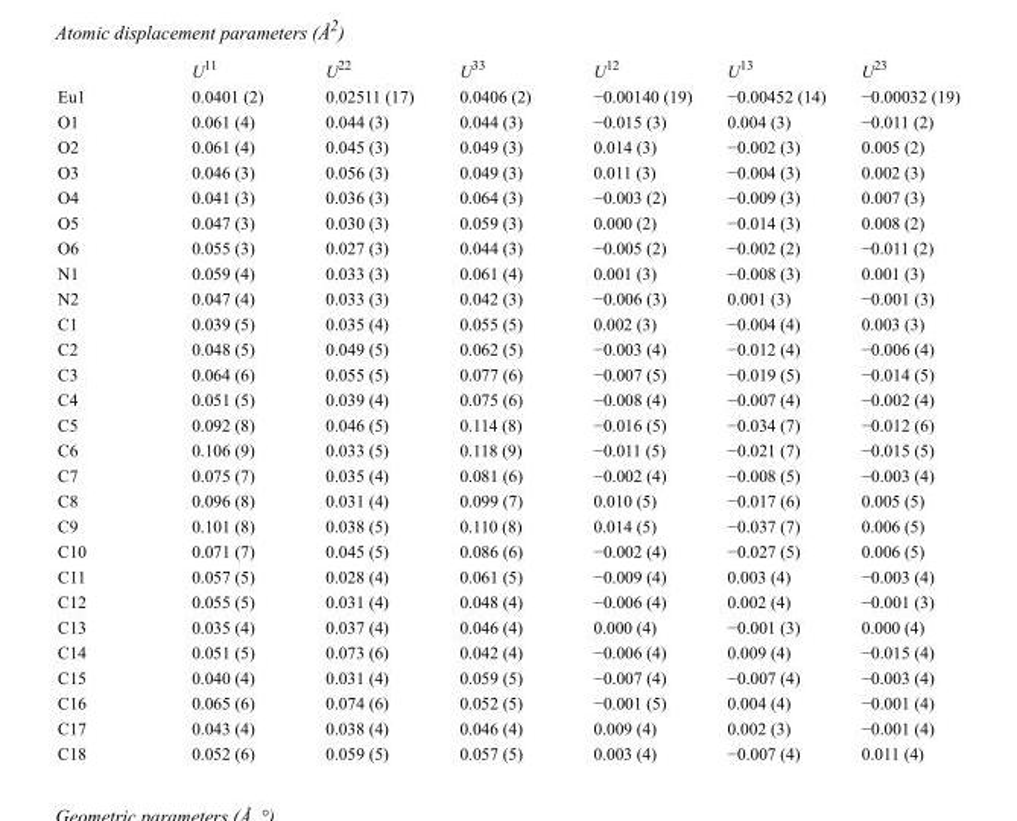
<table><thead><tr><td></td><td>U<sup>11</sup></td><td>U<sup>22</sup></td><td>U<sup>33</sup></td><td>U<sup>12</sup></td><td>U<sup>13</sup></td><td>U<sup>23</sup></td></tr></thead><tbody><tr><td>Eu1</td><td>0.0401 (2)</td><td>0.02511 (17)</td><td>0.0406 (2)</td><td>−0.00140 (19)</td><td>−0.00452 (14)</td><td>−0.00032 (19)</td></tr><tr><td>O1</td><td>0.061 (4)</td><td>0.044 (3)</td><td>0.044 (3)</td><td>−0.015 (3)</td><td>0.004 (3)</td><td>−0.011 (2)</td></tr><tr><td>O2</td><td>0.061 (4)</td><td>0.045 (3)</td><td>0.049 (3)</td><td>0.014 (3)</td><td>−0.002 (3)</td><td>0.005 (2)</td></tr><tr><td>O3</td><td>0.046 (3)</td><td>0.056 (3)</td><td>0.049 (3)</td><td>0.011 (3)</td><td>−0.004 (3)</td><td>0.002 (3)</td></tr><tr><td>O4</td><td>0.041 (3)</td><td>0.036 (3)</td><td>0.064 (3)</td><td>−0.003 (2)</td><td>−0.009 (3)</td><td>0.007 (3)</td></tr><tr><td>O5</td><td>0.047 (3)</td><td>0.030 (3)</td><td>0.059 (3)</td><td>0.000 (2)</td><td>−0.014 (3)</td><td>0.008 (2)</td></tr><tr><td>O6</td><td>0.055 (3)</td><td>0.027 (3)</td><td>0.044 (3)</td><td>−0.005 (2)</td><td>−0.002 (2)</td><td>−0.011 (2)</td></tr><tr><td>N1</td><td>0.059 (4)</td><td>0.033 (3)</td><td>0.061 (4)</td><td>0.001 (3)</td><td>−0.008 (3)</td><td>0.001 (3)</td></tr><tr><td>N2</td><td>0.047 (4)</td><td>0.033 (3)</td><td>0.042 (3)</td><td>−0.006 (3)</td><td>0.001 (3)</td><td>−0.001 (3)</td></tr><tr><td>C1</td><td>0.039 (5)</td><td>0.035 (4)</td><td>0.055 (5)</td><td>0.002 (3)</td><td>−0.004 (4)</td><td>0.003 (3)</td></tr><tr><td>C2</td><td>0.048 (5)</td><td>0.049 (5)</td><td>0.062 (5)</td><td>−0.003 (4)</td><td>−0.012 (4)</td><td>−0.006 (4)</td></tr><tr><td>C3</td><td>0.064 (6)</td><td>0.055 (5)</td><td>0.077 (6)</td><td>−0.007 (5)</td><td>−0.019 (5)</td><td>−0.014 (5)</td></tr><tr><td>C4</td><td>0.051 (5)</td><td>0.039 (4)</td><td>0.075 (6)</td><td>−0.008 (4)</td><td>−0.007 (4)</td><td>−0.002 (4)</td></tr><tr><td>C5</td><td>0.092 (8)</td><td>0.046 (5)</td><td>0.114 (8)</td><td>−0.016 (5)</td><td>−0.034 (7)</td><td>−0.012 (6)</td></tr><tr><td>C6</td><td>0.106 (9)</td><td>0.033 (5)</td><td>0.118 (9)</td><td>−0.011 (5)</td><td>−0.021 (7)</td><td>−0.015 (5)</td></tr><tr><td>C7</td><td>0.075 (7)</td><td>0.035 (4)</td><td>0.081 (6)</td><td>−0.002 (4)</td><td>−0.008 (5)</td><td>−0.003 (4)</td></tr><tr><td>C8</td><td>0.096 (8)</td><td>0.031 (4)</td><td>0.099 (7)</td><td>0.010 (5)</td><td>−0.017 (6)</td><td>0.005 (5)</td></tr><tr><td>C9</td><td>0.101 (8)</td><td>0.038 (5)</td><td>0.110 (8)</td><td>0.014 (5)</td><td>−0.037 (7)</td><td>0.006 (5)</td></tr><tr><td>C10</td><td>0.071 (7)</td><td>0.045 (5)</td><td>0.086 (6)</td><td>−0.002 (4)</td><td>−0.027 (5)</td><td>0.006 (5)</td></tr><tr><td>C11</td><td>0.057 (5)</td><td>0.028 (4)</td><td>0.061 (5)</td><td>−0.009 (4)</td><td>0.003 (4)</td><td>−0.003 (4)</td></tr><tr><td>C12</td><td>0.055 (5)</td><td>0.031 (4)</td><td>0.048 (4)</td><td>−0.006 (4)</td><td>0.002 (4)</td><td>−0.001 (3)</td></tr><tr><td>C13</td><td>0.035 (4)</td><td>0.037 (4)</td><td>0.046 (4)</td><td>0.000 (4)</td><td>−0.001 (3)</td><td>0.000 (4)</td></tr><tr><td>C14</td><td>0.051 (5)</td><td>0.073 (6)</td><td>0.042 (4)</td><td>−0.006 (4)</td><td>0.009 (4)</td><td>−0.015 (4)</td></tr><tr><td>C15</td><td>0.040 (4)</td><td>0.031 (4)</td><td>0.059 (5)</td><td>−0.007 (4)</td><td>−0.007 (4)</td><td>−0.003 (4)</td></tr><tr><td>C16</td><td>0.065 (6)</td><td>0.074 (6)</td><td>0.052 (5)</td><td>−0.001 (5)</td><td>0.004 (4)</td><td>−0.001 (4)</td></tr><tr><td>C17</td><td>0.043 (4)</td><td>0.038 (4)</td><td>0.046 (4)</td><td>0.009 (4)</td><td>0.002 (3)</td><td>−0.001 (4)</td></tr><tr><td>C18</td><td>0.052 (6)</td><td>0.059 (5)</td><td>0.057 (5)</td><td>0.003 (4)</td><td>−0.007 (4)</td><td>0.011 (4)</td></tr></tbody></table>